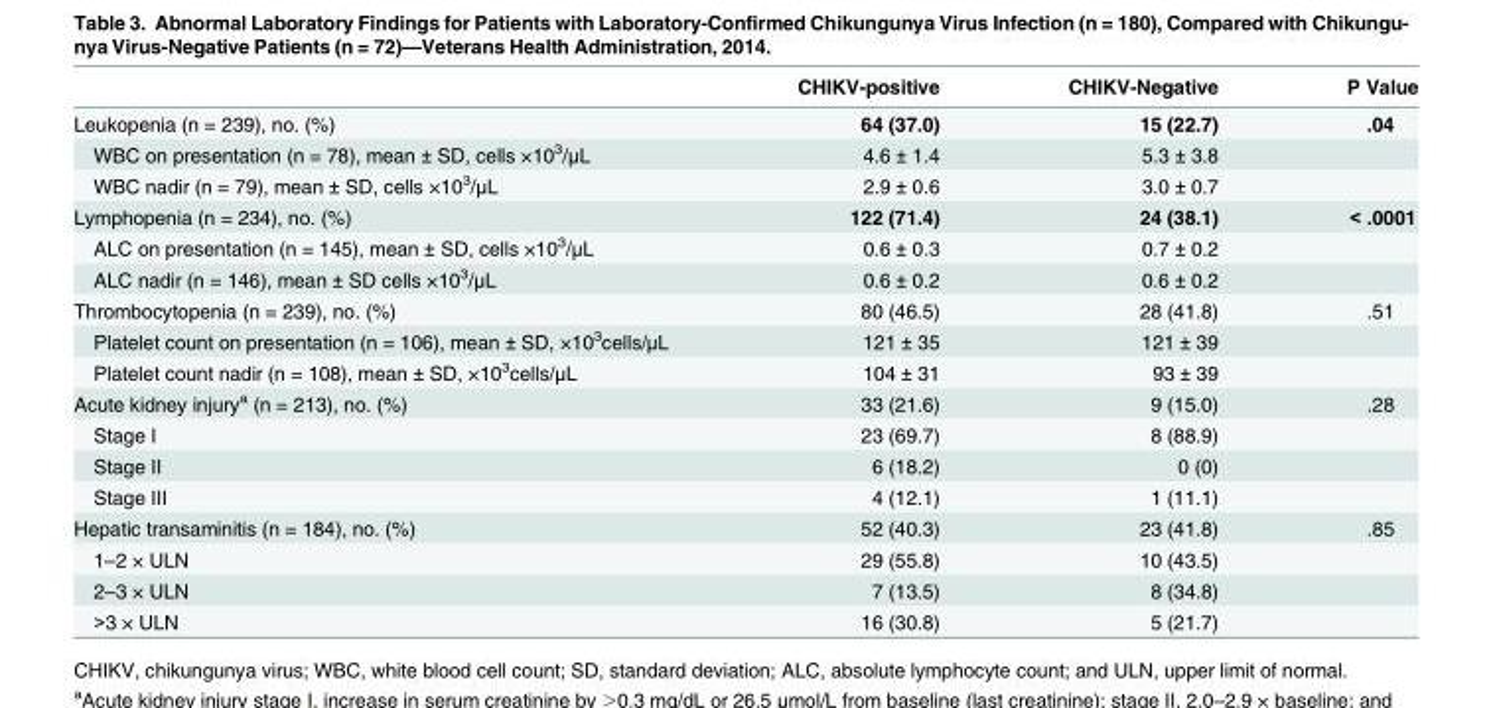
<table><thead><tr><td></td><td>CHIKV-positive</td><td>CHIKV-Negative</td><td>P Value</td></tr></thead><tbody><tr><td>Leukopenia (n = 239), no. (%)</td><td>64 (37.0)</td><td>15 (22.7)</td><td>.04</td></tr><tr><td>WBC on presentation (n = 78), mean ± SD, cells ×10<sup>3</sup>/μL</td><td>4.6 ± 1.4</td><td>5.3 ± 3.8</td><td></td></tr><tr><td>WBC nadir (n = 79), mean ± SD, cells ×10<sup>3</sup>/μL</td><td>2.9 ± 0.6</td><td>3.0 ± 0.7</td><td></td></tr><tr><td>Lymphopenia (n = 234), no. (%)</td><td>122 (71.4)</td><td>24 (38.1)</td><td>&lt; .0001</td></tr><tr><td>ALC on presentation (n = 145), mean ± SD, cells ×10<sup>3</sup>/μL</td><td>0.6 ± 0.3</td><td>0.7 ± 0.2</td><td></td></tr><tr><td>ALC nadir (n = 146), mean ± SD cells ×10<sup>3</sup>/μL</td><td>0.6 ± 0.2</td><td>0.6 ± 0.2</td><td></td></tr><tr><td>Thrombocytopenia (n = 239), no. (%)</td><td>80 (46.5)</td><td>28 (41.8)</td><td>.51</td></tr><tr><td>Platelet count on presentation (n = 106), mean ± SD, ×10<sup>3</sup>cells/μL</td><td>121 ± 35</td><td>121 ± 39</td><td></td></tr><tr><td>Platelet count nadir (n = 108), mean ± SD, ×10<sup>3</sup>cells/μL</td><td>104 ± 31</td><td>93 ± 39</td><td></td></tr><tr><td>Acute kidney injury<sup>a</sup> (n = 213), no. (%)</td><td>33 (21.6)</td><td>9 (15.0)</td><td>.28</td></tr><tr><td>Stage I</td><td>23 (69.7)</td><td>8 (88.9)</td><td></td></tr><tr><td>Stage II</td><td>6 (18.2)</td><td>0 (0)</td><td></td></tr><tr><td>Stage III</td><td>4 (12.1)</td><td>1 (11.1)</td><td></td></tr><tr><td>Hepatic transaminitis (n = 184), no. (%)</td><td>52 (40.3)</td><td>23 (41.8)</td><td>.85</td></tr><tr><td>1–2 × ULN</td><td>29 (55.8)</td><td>10 (43.5)</td><td></td></tr><tr><td>2–3 × ULN</td><td>7 (13.5)</td><td>8 (34.8)</td><td></td></tr><tr><td>&gt;3 × ULN</td><td>16 (30.8)</td><td>5 (21.7)</td><td></td></tr></tbody></table>